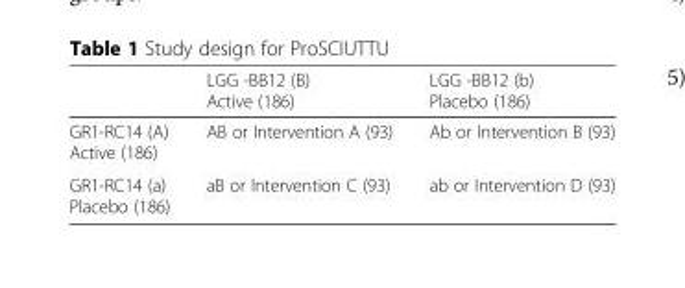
<table><thead><tr><td></td><td>LGG -BB12 (B) Active (186)</td><td>LGG -BB12 (b) Placebo (186)</td></tr></thead><tbody><tr><td>GR1-RC14 (A) Active (186)</td><td>AB or Intervention A (93)</td><td>Ab or Intervention B (93)</td></tr><tr><td>GR1-RC14 (a) Placebo (186)</td><td>aB or Intervention C (93)</td><td>ab or Intervention D (93)</td></tr></tbody></table>